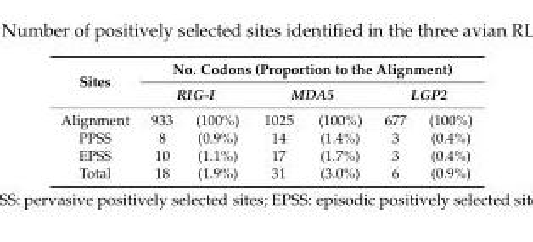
<table><thead><tr><td rowspan="3">Sites Alignment</td><td colspan="6">No. Codons (Proportion to the Alignment)</td></tr><tr><td colspan="2">RIG-I</td><td colspan="2">MDA5</td><td colspan="2">LGP2</td></tr><tr><td>933</td><td>(100%)</td><td>1025</td><td>(100%)</td><td>677</td><td>(100%)</td></tr></thead><tbody><tr><td>PPSS</td><td>8</td><td>(0.9%)</td><td>14</td><td>(1.4%)</td><td>3</td><td>(0.4%)</td></tr><tr><td>EPSS</td><td>10</td><td>(1.1%)</td><td>17</td><td>(1.7%)</td><td>3</td><td>(0.4%)</td></tr><tr><td>Total</td><td>18</td><td>(1.9%)</td><td>31</td><td>(3.0%)</td><td>6</td><td>(0.9%)</td></tr></tbody></table>